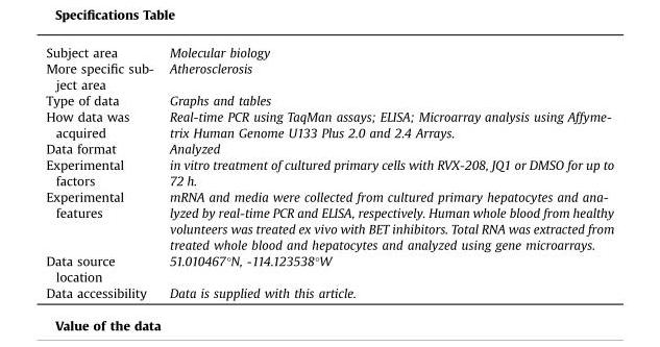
<table><tbody><tr><td>Subject area</td><td>Molecular biology</td></tr><tr><td>More specific sub- ject area</td><td>Atherosclerosis</td></tr><tr><td>Type of data</td><td>Graphs and tables</td></tr><tr><td>How data was acquired</td><td>Real-time PCR using TaqMan assays; ELISA; Microarray analysis using Affyme- trix Human Genome U133 Plus 2.0 and 2.4 Arrays.</td></tr><tr><td>Data format</td><td>Analyzed</td></tr><tr><td>Experimental factors</td><td>in vitro treatment of cultured primary cells with RVX-208, JQ1 or DMSO for up to 72 h.</td></tr><tr><td>Experimental features</td><td>mRNA and media were collected from cultured primary hepatocytes and ana- lyzed by real-time PCR and ELISA, respectively. Human whole blood from healthy volunteers was treated ex vivo with BET inhibitors. Total RNA was extracted from treated whole blood and hepatocytes and analyzed using gene microarrays.</td></tr><tr><td>Data source location</td><td>51.010467°N, -114.123538°W</td></tr><tr><td>Data accessibility</td><td>Data is supplied with this article.</td></tr></tbody></table>